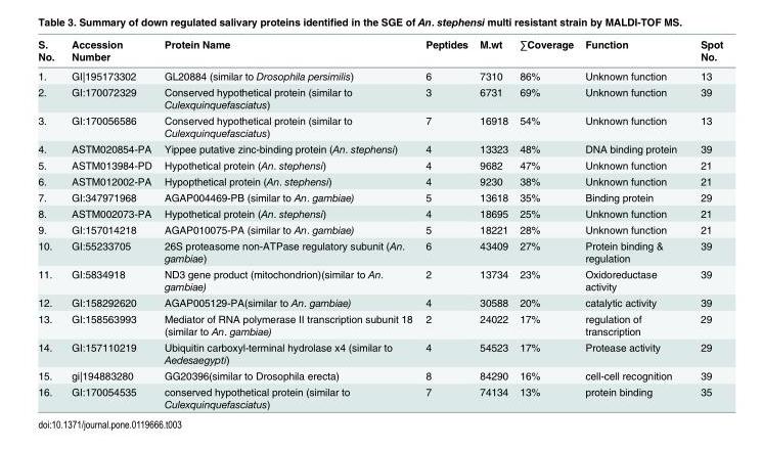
<table><thead><tr><td>S. No.</td><td>Accession Number</td><td>Protein Name</td><td>Peptides</td><td>M.wt</td><td>∑Coverage</td><td>Function</td><td>Spot No.</td></tr></thead><tbody><tr><td>1.</td><td>GI|195173302</td><td>GL20884 (similar to Drosophila persimilis)</td><td>6</td><td>7310</td><td>86%</td><td>Unknown function</td><td>13</td></tr><tr><td>2.</td><td>GI:170072329</td><td>Conserved hypothetical protein (similar to Culexquinquefasciatus)</td><td>3</td><td>6731</td><td>69%</td><td>Unknown function</td><td>39</td></tr><tr><td>3.</td><td>GI:170056586</td><td>Conserved hypothetical protein (similar to Culexquinquefasciatus)</td><td>7</td><td>16918</td><td>54%</td><td>Unknown function</td><td>13</td></tr><tr><td>4.</td><td>ASTM020854-PA</td><td>Yippee putative zinc-binding protein (An. stephensi)</td><td>4</td><td>13323</td><td>48%</td><td>DNA binding protein</td><td>39</td></tr><tr><td>5.</td><td>ASTM013984-PD</td><td>Hypothetical protein (An. stephensi)</td><td>4</td><td>9682</td><td>47%</td><td>Unknown function</td><td>21</td></tr><tr><td>6.</td><td>ASTM012002-PA</td><td>Hypopthetical protein (An. stephensi)</td><td>4</td><td>9230</td><td>38%</td><td>Unknown function</td><td>21</td></tr><tr><td>7.</td><td>GI:347971968</td><td>AGAP004469-PB (similar to An. gambiae)</td><td>5</td><td>13618</td><td>35%</td><td>Binding protein</td><td>29</td></tr><tr><td>8.</td><td>ASTM002073-PA</td><td>Hypothetical protein (An. stephensi)</td><td>4</td><td>18695</td><td>25%</td><td>Unknown function</td><td>21</td></tr><tr><td>9.</td><td>GI:157014218</td><td>AGAP010075-PA (similar to An. gambiae)</td><td>5</td><td>18221</td><td>28%</td><td>Unknown function</td><td>21</td></tr><tr><td>10.</td><td>GI:55233705</td><td>26S proteasome non-ATPase regulatory subunit (An. gambiae)</td><td>6</td><td>43409</td><td>27%</td><td>Protein binding &amp; regulation</td><td>39</td></tr><tr><td>11.</td><td>GI:5834918</td><td>ND3 gene product (mitochondrion)(similar to An. gambiae)</td><td>2</td><td>13734</td><td>23%</td><td>Oxidoreductase activity</td><td>39</td></tr><tr><td>12.</td><td>GI:158292620</td><td>AGAP005129-PA(similar to An. gambiae)</td><td>4</td><td>30588</td><td>20%</td><td>catalytic activity</td><td>39</td></tr><tr><td>13.</td><td>GI:158563993</td><td>Mediator of RNA polymerase II transcription subunit 18 (similar to An. gambiae)</td><td>2</td><td>24022</td><td>17%</td><td>regulation of transcription</td><td>29</td></tr><tr><td>14.</td><td>GI:157110219</td><td>Ubiquitin carboxyl-terminal hydrolase x4 (similar to Aedesaegypti)</td><td>4</td><td>54523</td><td>17%</td><td>Protease activity</td><td>29</td></tr><tr><td>15.</td><td>gi|194883280</td><td>GG20396(similar to Drosophila erecta)</td><td>8</td><td>84290</td><td>16%</td><td>cell-cell recognition</td><td>39</td></tr><tr><td>16.</td><td>GI:170054535</td><td>conserved hypothetical protein (similar to Culexquinquefasciatus)</td><td>7</td><td>74134</td><td>13%</td><td>protein binding</td><td>35</td></tr></tbody></table>